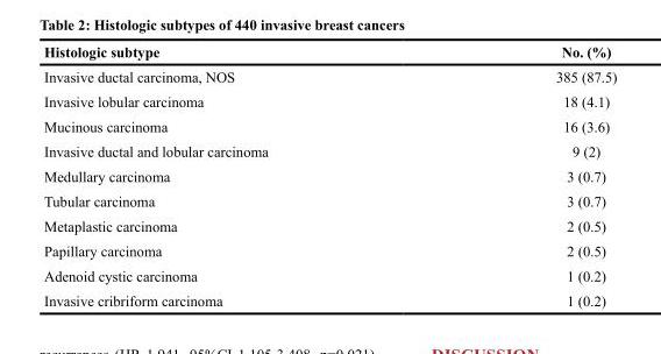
<table><thead><tr><td>Histologic subtype</td><td>No. (%)</td></tr></thead><tbody><tr><td>Invasive ductal carcinoma, NOS</td><td>385 (87.5)</td></tr><tr><td>Invasive lobular carcinoma</td><td>18 (4.1)</td></tr><tr><td>Mucinous carcinoma</td><td>16 (3.6)</td></tr><tr><td>Invasive ductal and lobular carcinoma</td><td>9 (2)</td></tr><tr><td>Medullary carcinoma</td><td>3 (0.7)</td></tr><tr><td>Tubular carcinoma</td><td>3 (0.7)</td></tr><tr><td>Metaplastic carcinoma</td><td>2 (0.5)</td></tr><tr><td>Papillary carcinoma</td><td>2 (0.5)</td></tr><tr><td>Adenoid cystic carcinoma</td><td>1 (0.2)</td></tr><tr><td>Invasive cribriform carcinoma</td><td>1 (0.2)</td></tr></tbody></table>